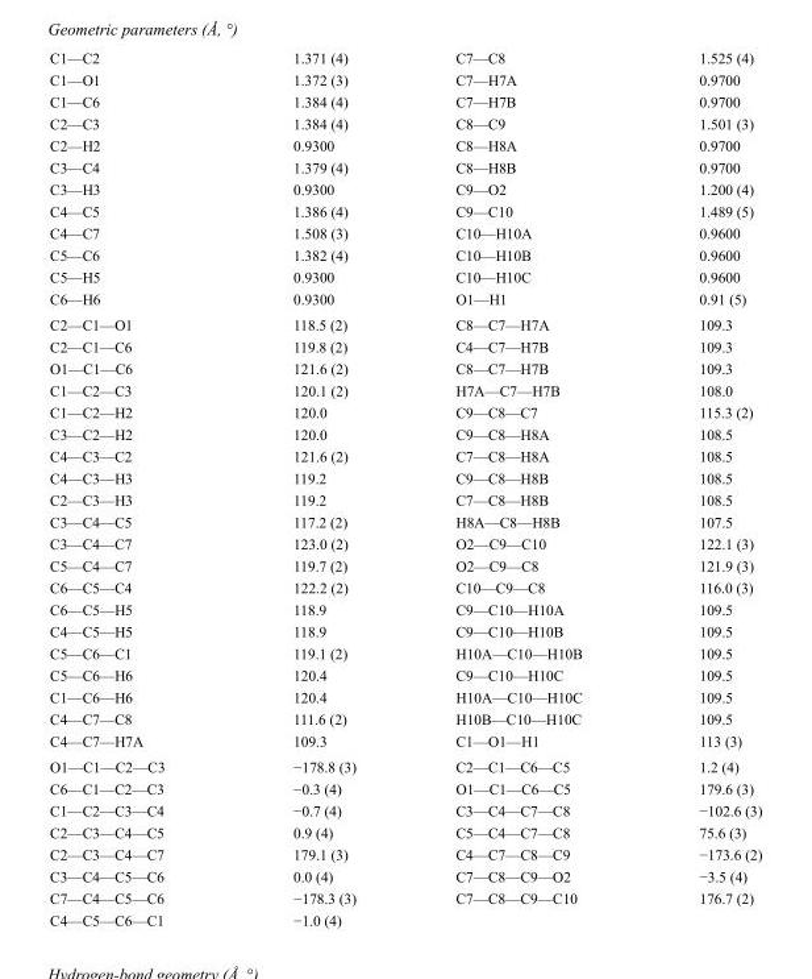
<table><tbody><tr><td>C1—C2</td><td>1.371 (4)</td><td>C7—C8</td><td>1.525 (4)</td></tr><tr><td>C1—O1</td><td>1.372 (3)</td><td>C7—H7A</td><td>0.9700</td></tr><tr><td>C1—C6</td><td>1.384 (4)</td><td>C7—H7B</td><td>0.9700</td></tr><tr><td>C2—C3</td><td>1.384 (4)</td><td>C8—C9</td><td>1.501 (3)</td></tr><tr><td>C2—H2</td><td>0.9300</td><td>C8—H8A</td><td>0.9700</td></tr><tr><td>C3—C4</td><td>1.379 (4)</td><td>C8—H8B</td><td>0.9700</td></tr><tr><td>C3—H3</td><td>0.9300</td><td>C9—O2</td><td>1.200 (4)</td></tr><tr><td>C4—C5</td><td>1.386 (4)</td><td>C9—C10</td><td>1.489 (5)</td></tr><tr><td>C4—C7</td><td>1.508 (3)</td><td>C10—H10A</td><td>0.9600</td></tr><tr><td>C5—C6</td><td>1.382 (4)</td><td>C10—H10B</td><td>0.9600</td></tr><tr><td>C5—H5</td><td>0.9300</td><td>C10—H10C</td><td>0.9600</td></tr><tr><td>C6—H6</td><td>0.9300</td><td>O1—H1</td><td>0.91 (5)</td></tr><tr><td>C2—C1—O1</td><td>118.5 (2)</td><td>C8—C7—H7A</td><td>109.3</td></tr><tr><td>C2—C1—C6</td><td>119.8 (2)</td><td>C4—C7—H7B</td><td>109.3</td></tr><tr><td>O1—C1—C6</td><td>121.6 (2)</td><td>C8—C7—H7B</td><td>109.3</td></tr><tr><td>C1—C2—C3</td><td>120.1 (2)</td><td>H7A—C7—H7B</td><td>108.0</td></tr><tr><td>C1—C2—H2</td><td>120.0</td><td>C9—C8—C7</td><td>115.3 (2)</td></tr><tr><td>C3—C2—H2</td><td>120.0</td><td>C9—C8—H8A</td><td>108.5</td></tr><tr><td>C4—C3—C2</td><td>121.6 (2)</td><td>C7—C8—H8A</td><td>108.5</td></tr><tr><td>C4—C3—H3</td><td>119.2</td><td>C9—C8—H8B</td><td>108.5</td></tr><tr><td>C2—C3—H3</td><td>119.2</td><td>C7—C8—H8B</td><td>108.5</td></tr><tr><td>C3—C4—C5</td><td>117.2 (2)</td><td>H8A—C8—H8B</td><td>107.5</td></tr><tr><td>C3—C4—C7</td><td>123.0 (2)</td><td>O2—C9—C10</td><td>122.1 (3)</td></tr><tr><td>C5—C4—C7</td><td>119.7 (2)</td><td>O2—C9—C8</td><td>121.9 (3)</td></tr><tr><td>C6—C5—C4</td><td>122.2 (2)</td><td>C10—C9—C8</td><td>116.0 (3)</td></tr><tr><td>C6—C5—H5</td><td>118.9</td><td>C9—C10—H10A</td><td>109.5</td></tr><tr><td>C4—C5—H5</td><td>118.9</td><td>C9—C10—H10B</td><td>109.5</td></tr><tr><td>C5—C6—C1</td><td>119.1 (2)</td><td>H10A—C10—H10B</td><td>109.5</td></tr><tr><td>C5—C6—H6</td><td>120.4</td><td>C9—C10—H10C</td><td>109.5</td></tr><tr><td>C1—C6—H6</td><td>120.4</td><td>H10A—C10—H10C</td><td>109.5</td></tr><tr><td>C4—C7—C8</td><td>111.6 (2)</td><td>H10B—C10—H10C</td><td>109.5</td></tr><tr><td>C4—C7—H7A</td><td>109.3</td><td>C1—O1—H1</td><td>113 (3)</td></tr><tr><td>O1—C1—C2—C3</td><td>−178.8 (3)</td><td>C2—C1—C6—C5</td><td>1.2 (4)</td></tr><tr><td>C6—C1—C2—C3</td><td>−0.3 (4)</td><td>O1—C1—C6—C5</td><td>179.6 (3)</td></tr><tr><td>C1—C2—C3—C4</td><td>−0.7 (4)</td><td>C3—C4—C7—C8</td><td>−102.6 (3)</td></tr><tr><td>C2—C3—C4—C5</td><td>0.9 (4)</td><td>C5—C4—C7—C8</td><td>75.6 (3)</td></tr><tr><td>C2—C3—C4—C7</td><td>179.1 (3)</td><td>C4—C7—C8—C9</td><td>−173.6 (2)</td></tr><tr><td>C3—C4—C5—C6</td><td>0.0 (4)</td><td>C7—C8—C9—O2</td><td>−3.5 (4)</td></tr><tr><td>C7—C4—C5—C6</td><td>−178.3 (3)</td><td>C7—C8—C9—C10</td><td>176.7 (2)</td></tr><tr><td>C4—C5—C6—C1</td><td>−1.0 (4)</td><td></td><td></td></tr></tbody></table>